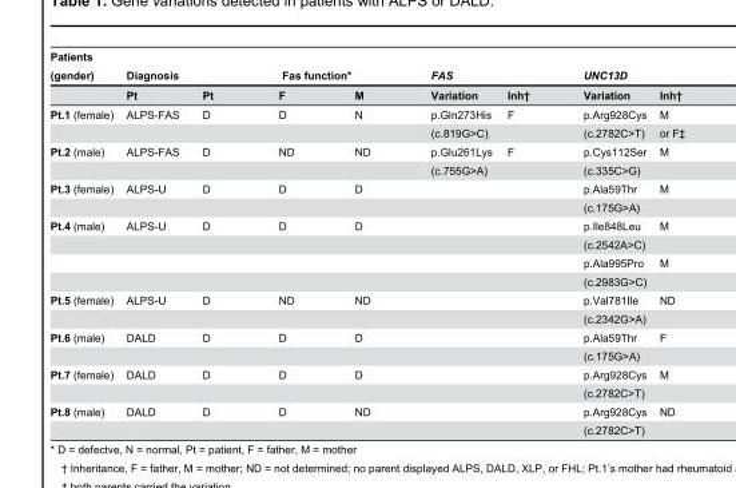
<table><thead><tr><td rowspan="2">Patients (gender)</td><td rowspan="2">Diagnosis Pt</td><td colspan="3">Fas function*</td><td colspan="2">FAS</td><td colspan="2">UNC13D</td></tr><tr><td>Pt</td><td>F</td><td>M</td><td>Variation</td><td>Inh†</td><td>Variation</td><td>Inh†</td></tr></thead><tbody><tr><td rowspan="2">Pt.1 (female)</td><td>ALPS-FAS</td><td>D</td><td>D</td><td>N</td><td>p.Gln273His</td><td>F</td><td>p.Arg928Cys</td><td>M</td></tr><tr><td></td><td></td><td></td><td></td><td>(c.819G&gt;C)</td><td></td><td>(c.2782C&gt;T)</td><td>or F‡</td></tr><tr><td rowspan="2">Pt.2 (male)</td><td>ALPS-FAS</td><td>D</td><td>ND</td><td>ND</td><td>p.Glu261Lys</td><td>F</td><td>p.Cys112Ser</td><td>M</td></tr><tr><td></td><td></td><td></td><td></td><td>(c.755G&gt;A)</td><td></td><td>(c.335C&gt;G)</td><td></td></tr><tr><td rowspan="2">Pt.3 (female)</td><td>ALPS-U</td><td>D</td><td>D</td><td>D</td><td></td><td></td><td>p.Ala59Thr</td><td>M</td></tr><tr><td></td><td></td><td></td><td></td><td></td><td></td><td>(c.175G&gt;A)</td><td></td></tr><tr><td rowspan="4">Pt.4 (male)</td><td>ALPS-U</td><td>D</td><td>D</td><td>D</td><td></td><td></td><td>p.Ile848Leu</td><td>M</td></tr><tr><td></td><td></td><td></td><td></td><td></td><td></td><td>(c.2542A&gt;C)</td><td></td></tr><tr><td></td><td></td><td></td><td></td><td></td><td></td><td>p.Ala995Pro</td><td>M</td></tr><tr><td></td><td></td><td></td><td></td><td></td><td></td><td>(c.2983G&gt;C)</td><td></td></tr><tr><td rowspan="2">Pt.5 (female)</td><td>ALPS-U</td><td>D</td><td>ND</td><td>ND</td><td></td><td></td><td>p.Val781Ile</td><td>ND</td></tr><tr><td></td><td></td><td></td><td></td><td></td><td></td><td>(c.2342G&gt;A)</td><td></td></tr><tr><td rowspan="2">Pt.6 (male)</td><td>DALD</td><td>D</td><td>D</td><td>D</td><td></td><td></td><td>p.Ala59Thr</td><td>F</td></tr><tr><td></td><td></td><td></td><td></td><td></td><td></td><td>(c.175G&gt;A)</td><td></td></tr><tr><td rowspan="2">Pt.7 (female)</td><td>DALD</td><td>D</td><td>D</td><td>D</td><td></td><td></td><td>p.Arg928Cys</td><td>M</td></tr><tr><td></td><td></td><td></td><td></td><td></td><td></td><td>(c.2782C&gt;T)</td><td></td></tr><tr><td rowspan="2">Pt.8 (male)</td><td>DALD</td><td>D</td><td>D</td><td>ND</td><td></td><td></td><td>p.Arg928Cys</td><td>ND</td></tr><tr><td></td><td></td><td></td><td></td><td></td><td></td><td>(c.2782C&gt;T)</td><td></td></tr></tbody></table>